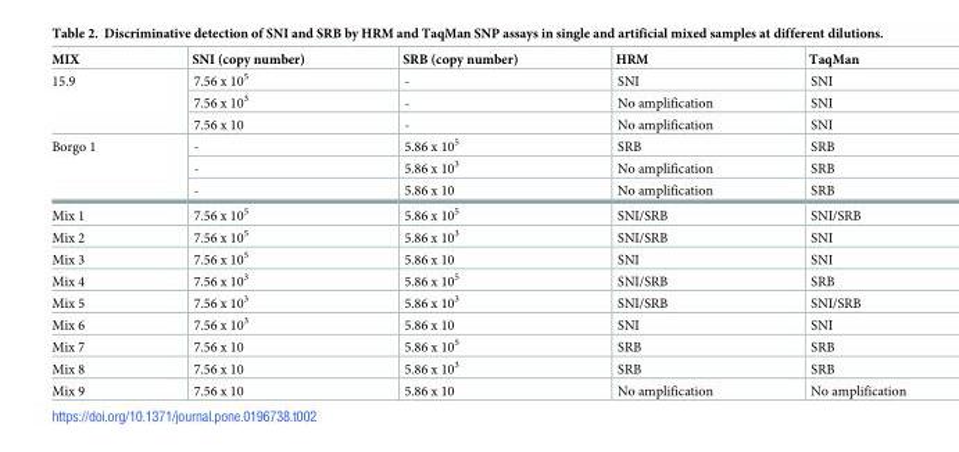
<table><thead><tr><td>MIX</td><td>SNI (copy number)</td><td>SRB (copy number)</td><td>HRM</td><td>TaqMan</td></tr></thead><tbody><tr><td rowspan="3">15.9</td><td>7.56 x 10<sup>5</sup></td><td>-</td><td>SNI</td><td>SNI</td></tr><tr><td>7.56 x 10<sup>3</sup></td><td>-</td><td>No amplification</td><td>SNI</td></tr><tr><td>7.56 x 10</td><td>-</td><td>No amplification</td><td>SNI</td></tr><tr><td rowspan="3">Borgo 1</td><td>-</td><td>5.86 x 10<sup>5</sup></td><td>SRB</td><td>SRB</td></tr><tr><td>-</td><td>5.86 x 10<sup>3</sup></td><td>No amplification</td><td>SRB</td></tr><tr><td>-</td><td>5.86 x 10</td><td>No amplification</td><td>SRB</td></tr><tr><td>Mix 1</td><td>7.56 x 10<sup>5</sup></td><td>5.86 x 10<sup>5</sup></td><td>SNI/SRB</td><td>SNI/SRB</td></tr><tr><td>Mix 2</td><td>7.56 x 10<sup>5</sup></td><td>5.86 x 10<sup>3</sup></td><td>SNI/SRB</td><td>SNI</td></tr><tr><td>Mix 3</td><td>7.56 x 10<sup>5</sup></td><td>5.86 x 10</td><td>SNI</td><td>SNI</td></tr><tr><td>Mix 4</td><td>7.56 x 10<sup>3</sup></td><td>5.86 x 10<sup>5</sup></td><td>SNI/SRB</td><td>SRB</td></tr><tr><td>Mix 5</td><td>7.56 x 10<sup>3</sup></td><td>5.86 x 10<sup>3</sup></td><td>SNI/SRB</td><td>SNI/SRB</td></tr><tr><td>Mix 6</td><td>7.56 x 10<sup>3</sup></td><td>5.86 x 10</td><td>SNI</td><td>SNI</td></tr><tr><td>Mix 7</td><td>7.56 x 10</td><td>5.86 x 10<sup>5</sup></td><td>SRB</td><td>SRB</td></tr><tr><td>Mix 8</td><td>7.56 x 10</td><td>5.86 x 10<sup>3</sup></td><td>SRB</td><td>SRB</td></tr><tr><td>Mix 9</td><td>7.56 x 10</td><td>5.86 x 10</td><td>No amplification</td><td>No amplification</td></tr></tbody></table>